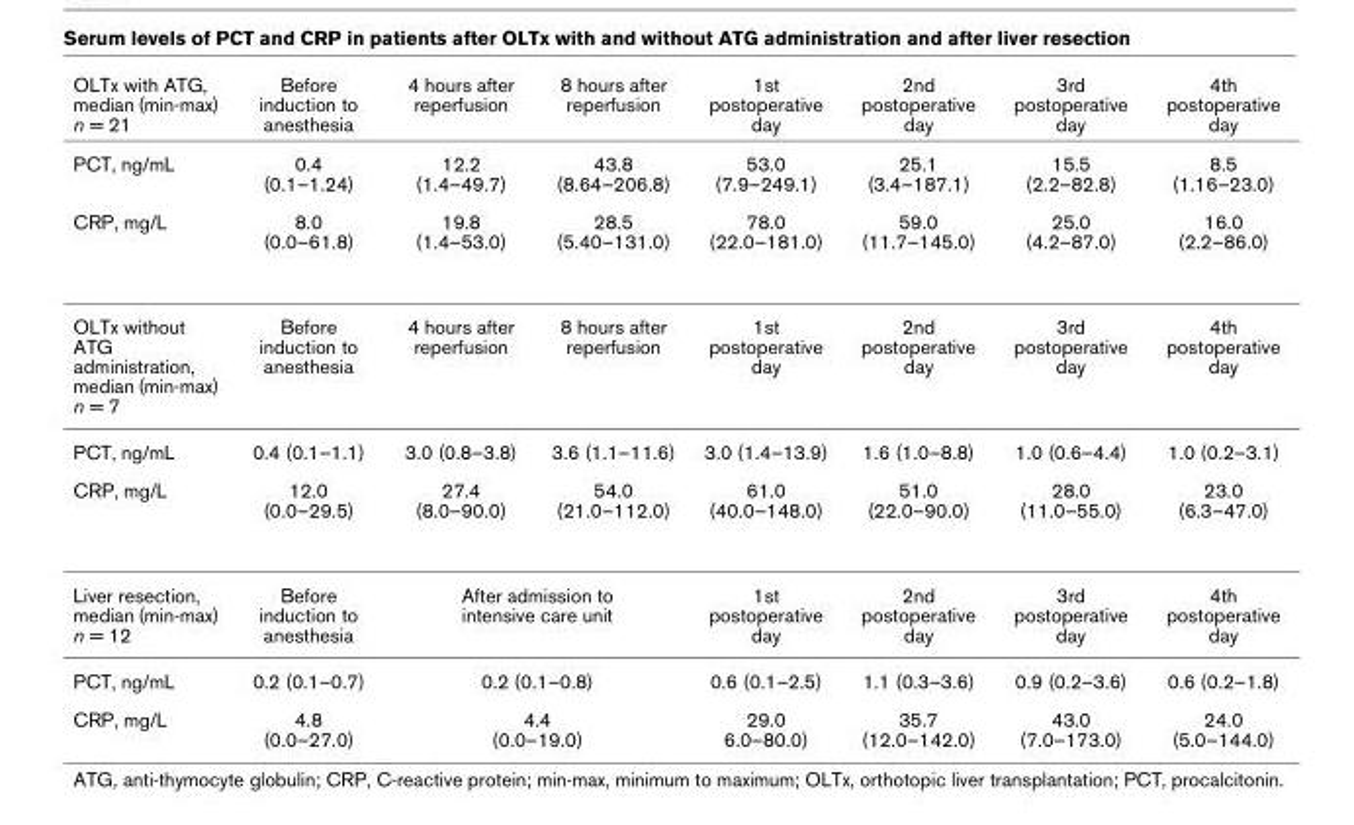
<table><thead><tr><td>OLTx with ATG, median (min-max) n = 21</td><td>Before induction to anesthesia</td><td>4 hours after reperfusion</td><td>8 hours after reperfusion</td><td>1st postoperative day</td><td>2nd postoperative day</td><td>3rd postoperative day</td><td>4th postoperative day</td></tr></thead><tbody><tr><td>PCT, ng/mL</td><td>0.4 (0.1–1.24)</td><td>12.2 (1.4–49.7)</td><td>43.8 (8.64–206.8)</td><td>53.0 (7.9–249.1)</td><td>25.1 (3.4–187.1)</td><td>15.5 (2.2–82.8)</td><td>8.5 (1.16–23.0)</td></tr><tr><td>CRP, mg/L</td><td>8.0 (0.0–61.8)</td><td>19.8 (1.4–53.0)</td><td>28.5 (5.40–131.0)</td><td>78.0 (22.0–181.0)</td><td>59.0 (11.7–145.0)</td><td>25.0 (4.2–87.0)</td><td>16.0 (2.2–86.0)</td></tr><tr><td>OLTx without ATG administration, median (min-max) n = 7</td><td>Before induction to anesthesia</td><td>4 hours after reperfusion</td><td>8 hours after reperfusion</td><td>1st postoperative day</td><td>2nd postoperative day</td><td>3rd postoperative day</td><td>4th postoperative day</td></tr><tr><td>PCT, ng/mL</td><td>0.4 (0.1–1.1)</td><td>3.0 (0.8–3.8)</td><td>3.6 (1.1–11.6)</td><td>3.0 (1.4–13.9)</td><td>1.6 (1.0–8.8)</td><td>1.0 (0.6–4.4)</td><td>1.0 (0.2–3.1)</td></tr><tr><td>CRP, mg/L</td><td>12.0 (0.0–29.5)</td><td>27.4 (8.0–90.0)</td><td>54.0 (21.0–112.0)</td><td>61.0 (40.0–148.0)</td><td>51.0 (22.0–90.0)</td><td>28.0 (11.0–55.0)</td><td>23.0 (6.3–47.0)</td></tr><tr><td>Liver resection, median (min-max) n = 12</td><td>Before induction to anesthesia</td><td colspan="2">After admission to intensive care unit</td><td>1st postoperative day</td><td>2nd postoperative day</td><td>3rd postoperative day</td><td>4th postoperative day</td></tr><tr><td>PCT, ng/mL</td><td>0.2 (0.1–0.7)</td><td colspan="2">0.2 (0.1–0.8)</td><td>0.6 (0.1–2.5)</td><td>1.1 (0.3–3.6)</td><td>0.9 (0.2–3.6)</td><td>0.6 (0.2–1.8)</td></tr><tr><td>CRP, mg/L</td><td>4.8 (0.0–27.0)</td><td colspan="2">4.4 (0.0–19.0)</td><td>29.0 6.0–80.0)</td><td>35.7 (12.0–142.0)</td><td>43.0 (7.0–173.0)</td><td>24.0 (5.0–144.0)</td></tr></tbody></table>